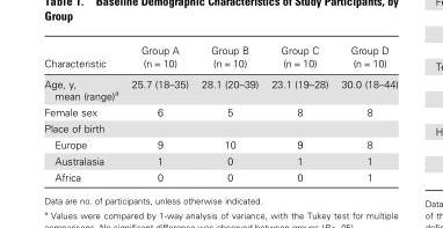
<table><thead><tr><td>Characteristic</td><td>Group A (n = 10)</td><td>Group B (n = 10)</td><td>Group C (n = 10)</td><td>Group D (n = 10)</td></tr></thead><tbody><tr><td>Age, y, mean (range)<sup>a</sup></td><td>25.7 (18–35)</td><td>28.1 (20–39)</td><td>23.1 (19–28)</td><td>30.0 (18–44)</td></tr><tr><td>Female sex</td><td>6</td><td>5</td><td>8</td><td>8</td></tr><tr><td colspan="5">Place of birth</td></tr><tr><td>Europe</td><td>9</td><td>10</td><td>9</td><td>8</td></tr><tr><td>Australasia</td><td>1</td><td>0</td><td>1</td><td>1</td></tr><tr><td>Africa</td><td>0</td><td>0</td><td>0</td><td>1</td></tr></tbody></table>